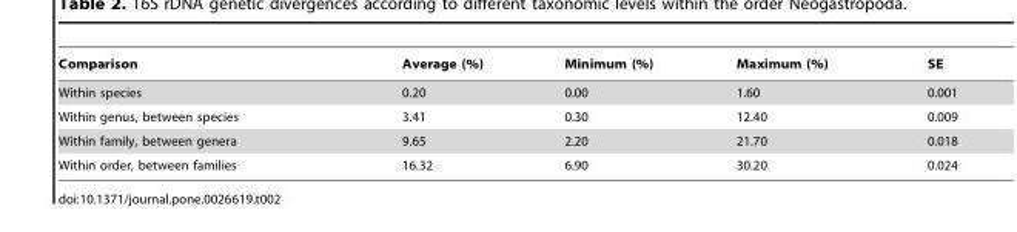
<table><thead><tr><td>Comparison</td><td>Average (%)</td><td>Minimum (%)</td><td>Maximum (%)</td><td>SE</td></tr></thead><tbody><tr><td>Within species</td><td>0.20</td><td>0.00</td><td>1.60</td><td>0.001</td></tr><tr><td>Within genus, between species</td><td>3.41</td><td>0.30</td><td>12.40</td><td>0.009</td></tr><tr><td>Within family, between genera</td><td>9.65</td><td>2.20</td><td>21.70</td><td>0.018</td></tr><tr><td>Within order, between families</td><td>16.32</td><td>6.90</td><td>30.20</td><td>0.024</td></tr></tbody></table>